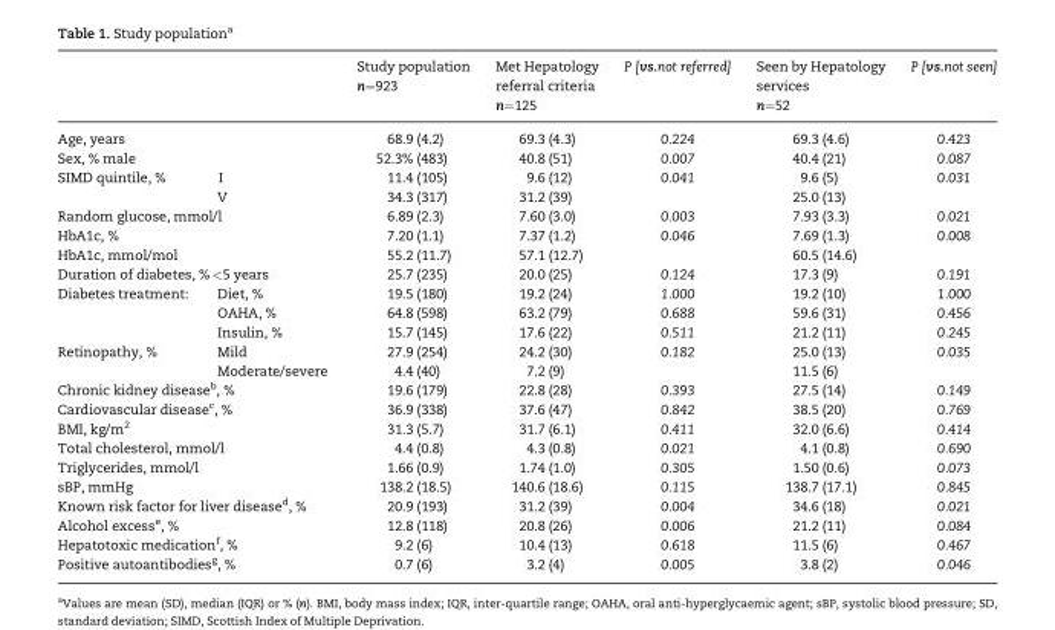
<table><thead><tr><td></td><td></td><td>Study population n=923</td><td>Met Hepatology referral criteria n=125</td><td>P [vs.not referred]</td><td>Seen by Hepatology services n=52</td><td>P [vs.not seen]</td></tr></thead><tbody><tr><td colspan="2">Age, years</td><td>68.9 (4.2)</td><td>69.3 (4.3)</td><td>0.224</td><td>69.3 (4.6)</td><td>0.423</td></tr><tr><td colspan="2">Sex, % male</td><td>52.3% (483)</td><td>40.8 (51)</td><td>0.007</td><td>40.4 (21)</td><td>0.087</td></tr><tr><td rowspan="2">SIMD quintile, %</td><td>I</td><td>11.4 (105)</td><td>9.6 (12)</td><td rowspan="2">0.041</td><td>9.6 (5)</td><td rowspan="2">0.031</td></tr><tr><td>V</td><td>34.3 (317)</td><td>31.2 (39)</td><td>25.0 (13)</td></tr><tr><td colspan="2">Random glucose, mmol/l</td><td>6.89 (2.3)</td><td>7.60 (3.0)</td><td>0.003</td><td>7.93 (3.3)</td><td>0.021</td></tr><tr><td colspan="2">HbA1c, %</td><td>7.20 (1.1)</td><td>7.37 (1.2)</td><td rowspan="2">0.046</td><td>7.69 (1.3)</td><td rowspan="2">0.008</td></tr><tr><td colspan="2">HbA1c, mmol/mol</td><td>55.2 (11.7)</td><td>57.1 (12.7)</td><td>60.5 (14.6)</td></tr><tr><td colspan="2">Duration of diabetes, % &lt;5 years</td><td>25.7 (235)</td><td>20.0 (25)</td><td>0.124</td><td>17.3 (9)</td><td>0.191</td></tr><tr><td rowspan="3">Diabetes treatment:</td><td>Diet, %</td><td>19.5 (180)</td><td>19.2 (24)</td><td>1.000</td><td>19.2 (10)</td><td>1.000</td></tr><tr><td>OAHA, %</td><td>64.8 (598)</td><td>63.2 (79)</td><td>0.688</td><td>59.6 (31)</td><td>0.456</td></tr><tr><td>Insulin, %</td><td>15.7 (145)</td><td>17.6 (22)</td><td>0.511</td><td>21.2 (11)</td><td>0.245</td></tr><tr><td rowspan="2">Retinopathy, %</td><td>Mild</td><td>27.9 (254)</td><td>24.2 (30)</td><td rowspan="2">0.182</td><td>25.0 (13)</td><td rowspan="2">0.035</td></tr><tr><td>Moderate/severe</td><td>4.4 (40)</td><td>7.2 (9)</td><td>11.5 (6)</td></tr><tr><td colspan="2">Chronic kidney disease<sup>b</sup>, %</td><td>19.6 (179)</td><td>22.8 (28)</td><td>0.393</td><td>27.5 (14)</td><td>0.149</td></tr><tr><td colspan="2">Cardiovascular disease<sup>c</sup>, %</td><td>36.9 (338)</td><td>37.6 (47)</td><td>0.842</td><td>38.5 (20)</td><td>0.769</td></tr><tr><td colspan="2">BMI, kg/m<sup>2</sup></td><td>31.3 (5.7)</td><td>31.7 (6.1)</td><td>0.411</td><td>32.0 (6.6)</td><td>0.414</td></tr><tr><td colspan="2">Total cholesterol, mmol/l</td><td>4.4 (0.8)</td><td>4.3 (0.8)</td><td>0.021</td><td>4.1 (0.8)</td><td>0.690</td></tr><tr><td colspan="2">Triglycerides, mmol/l</td><td>1.66 (0.9)</td><td>1.74 (1.0)</td><td>0.305</td><td>1.50 (0.6)</td><td>0.073</td></tr><tr><td colspan="2">sBP, mmHg</td><td>138.2 (18.5)</td><td>140.6 (18.6)</td><td>0.115</td><td>138.7 (17.1)</td><td>0.845</td></tr><tr><td colspan="2">Known risk factor for liver disease<sup>d</sup>, %</td><td>20.9 (193)</td><td>31.2 (39)</td><td>0.004</td><td>34.6 (18)</td><td>0.021</td></tr><tr><td colspan="2">Alcohol excess<sup>e</sup>, %</td><td>12.8 (118)</td><td>20.8 (26)</td><td>0.006</td><td>21.2 (11)</td><td>0.084</td></tr><tr><td colspan="2">Hepatotoxic medication<sup>f</sup>, %</td><td>9.2 (6)</td><td>10.4 (13)</td><td>0.618</td><td>11.5 (6)</td><td>0.467</td></tr><tr><td colspan="2">Positive autoantibodies<sup>g</sup>, %</td><td>0.7 (6)</td><td>3.2 (4)</td><td>0.005</td><td>3.8 (2)</td><td>0.046</td></tr></tbody></table>